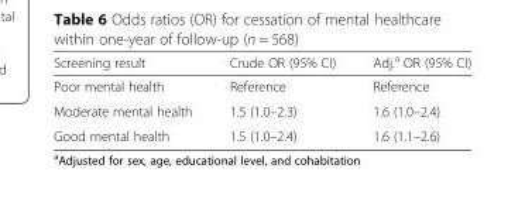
<table><thead><tr><td>Screening result</td><td>Crude OR (95% CI)</td><td>Adj.<sup>a</sup> OR (95% CI)</td></tr></thead><tbody><tr><td>Poor mental health</td><td>Reference</td><td>Reference</td></tr><tr><td>Moderate mental health</td><td>1.5 (1.0–2.3)</td><td>1.6 (1.0–2.4)</td></tr><tr><td>Good mental health</td><td>1.5 (1.0–2.4)</td><td>1.6 (1.1–2.6)</td></tr></tbody></table>